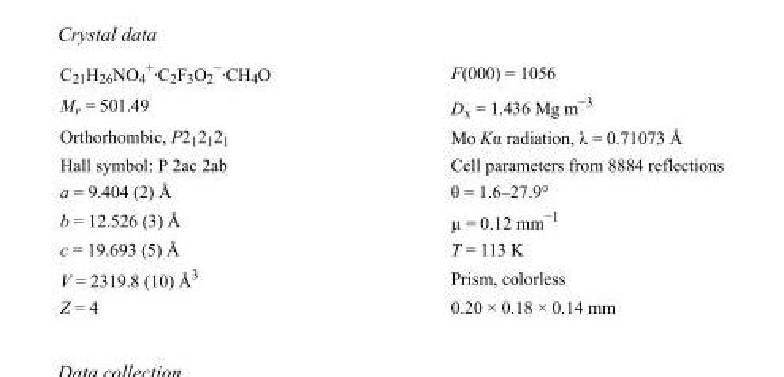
<table><tbody><tr><td>C<sub>21</sub>H<sub>26</sub>NO<sub>4</sub> <sup>+</sup>·C<sub>2</sub>F<sub>3</sub>O<sub>2</sub> <sup>−</sup>·CH<sub>4</sub>O</td><td>F(000) = 1056</td></tr><tr><td>M<sub>r</sub> = 501.49</td><td>D<sub>x</sub> = 1.436 Mg m<sup>−3</sup></td></tr><tr><td>Orthorhombic, P2<sub>1</sub>2<sub>1</sub>2<sub>1</sub></td><td>Mo Kα radiation, λ = 0.71073 Å</td></tr><tr><td>Hall symbol: P 2ac 2ab</td><td>Cell parameters from 8884 reflections</td></tr><tr><td>a = 9.404 (2) Å</td><td>θ = 1.6–27.9°</td></tr><tr><td>b = 12.526 (3) Å</td><td>µ = 0.12 mm<sup>−1</sup></td></tr><tr><td>c = 19.693 (5) Å</td><td>T = 113 K</td></tr><tr><td>V = 2319.8 (10) Å<sup>3</sup></td><td>Prism, colorless</td></tr><tr><td>Z = 4</td><td>0.20 × 0.18 × 0.14 mm</td></tr></tbody></table>